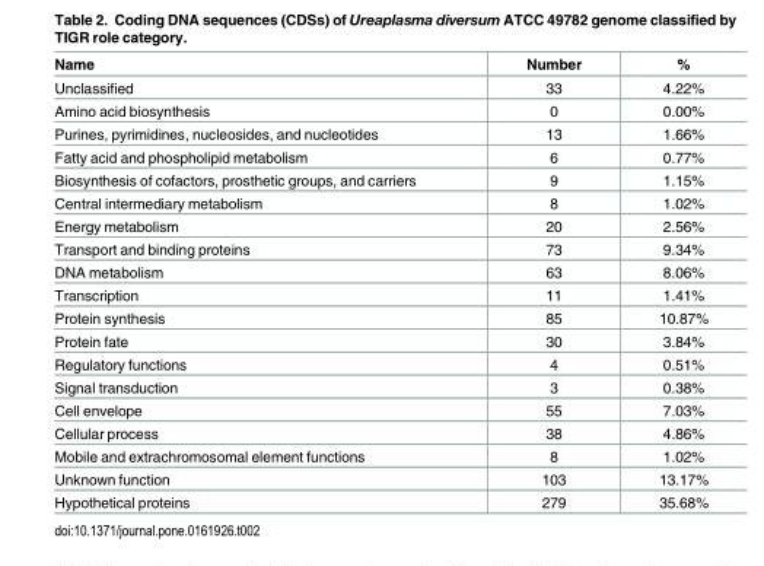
<table><thead><tr><td>Name</td><td>Number</td><td>%</td></tr></thead><tbody><tr><td>Unclassified</td><td>33</td><td>4.22%</td></tr><tr><td>Amino acid biosynthesis</td><td>0</td><td>0.00%</td></tr><tr><td>Purines, pyrimidines, nucleosides, and nucleotides</td><td>13</td><td>1.66%</td></tr><tr><td>Fatty acid and phospholipid metabolism</td><td>6</td><td>0.77%</td></tr><tr><td>Biosynthesis of cofactors, prosthetic groups, and carriers</td><td>9</td><td>1.15%</td></tr><tr><td>Central intermediary metabolism</td><td>8</td><td>1.02%</td></tr><tr><td>Energy metabolism</td><td>20</td><td>2.56%</td></tr><tr><td>Transport and binding proteins</td><td>73</td><td>9.34%</td></tr><tr><td>DNA metabolism</td><td>63</td><td>8.06%</td></tr><tr><td>Transcription</td><td>11</td><td>1.41%</td></tr><tr><td>Protein synthesis</td><td>85</td><td>10.87%</td></tr><tr><td>Protein fate</td><td>30</td><td>3.84%</td></tr><tr><td>Regulatory functions</td><td>4</td><td>0.51%</td></tr><tr><td>Signal transduction</td><td>3</td><td>0.38%</td></tr><tr><td>Cell envelope</td><td>55</td><td>7.03%</td></tr><tr><td>Cellular process</td><td>38</td><td>4.86%</td></tr><tr><td>Mobile and extrachromosomal element functions</td><td>8</td><td>1.02%</td></tr><tr><td>Unknown function</td><td>103</td><td>13.17%</td></tr><tr><td>Hypothetical proteins</td><td>279</td><td>35.68%</td></tr></tbody></table>